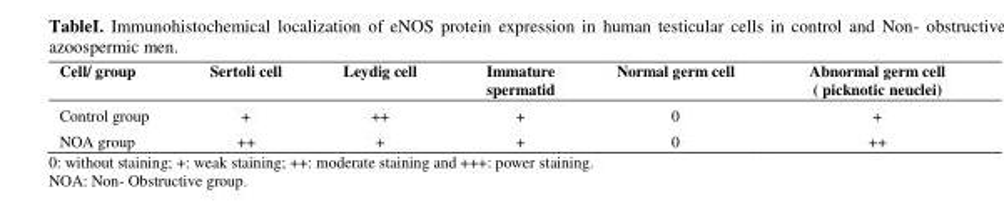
<table><thead><tr><td>Cell/ group</td><td>Sertoli cell</td><td>Leydig cell</td><td>Immature spermatid</td><td>Normal germ cell</td><td>Abnormal germ cell ( picknotic neuclei)</td></tr></thead><tbody><tr><td>Control group</td><td>+</td><td>++</td><td>+</td><td>0</td><td>+</td></tr><tr><td>NOA group</td><td>++</td><td>+</td><td>+</td><td>0</td><td>++</td></tr></tbody></table>